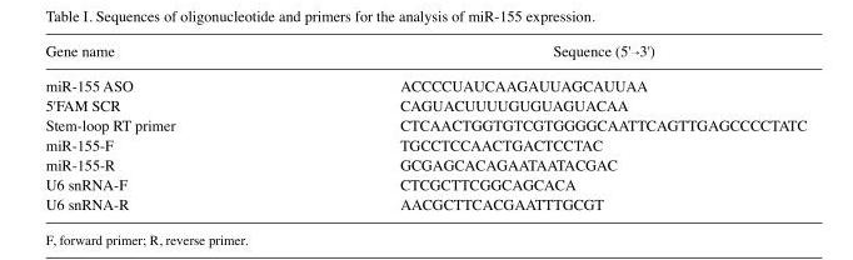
<table><thead><tr><td>Gene name</td><td>Sequence (5&#x27;→3&#x27;)</td></tr></thead><tbody><tr><td>miR-155 ASO</td><td>ACCCCUAUCAAGAUUAGCAUUAA</td></tr><tr><td>5&#x27;FAM SCR</td><td>CAGUACUUUUGUGUAGUACAA</td></tr><tr><td>Stem-loop RT primer</td><td>CTCAACTGGTGTCGTGGGGCAATTCAGTTGAGCCCCTATC</td></tr><tr><td>miR-155-F</td><td>TGCCTCCAACTGACTCCTAC</td></tr><tr><td>miR-155-R</td><td>GCGAGCACAGAATAATACGAC</td></tr><tr><td>U6 snRNA-F</td><td>CTCGCTTCGGCAGCACA</td></tr><tr><td>U6 snRNA-R</td><td>AACGCTTCACGAATTTGCGT</td></tr></tbody></table>